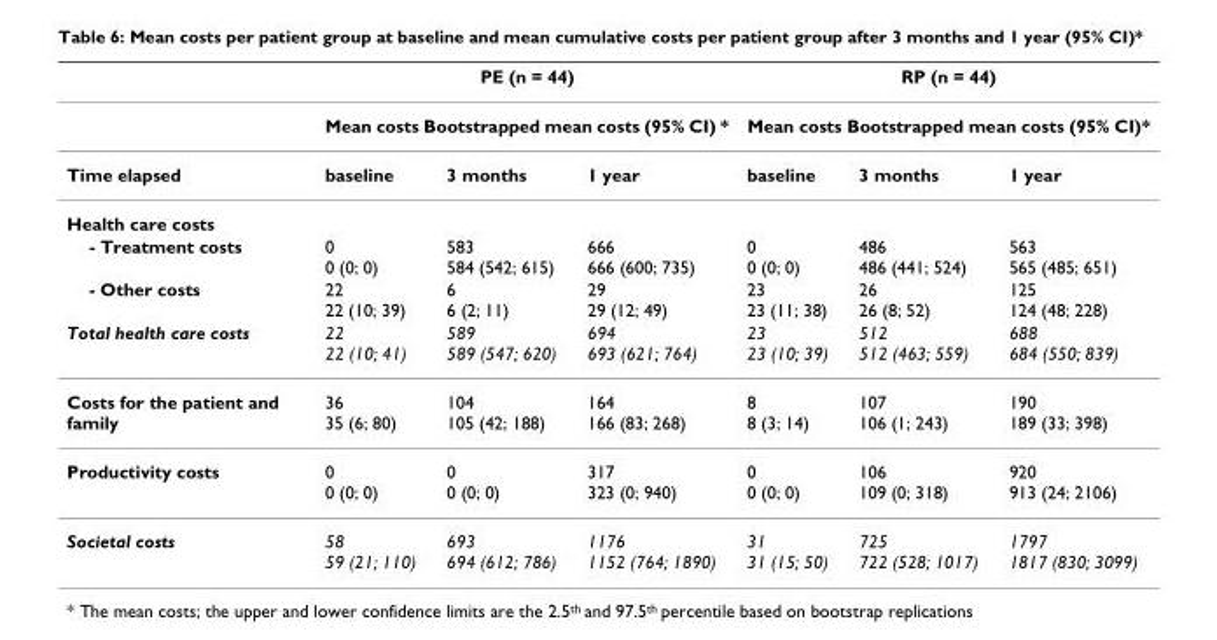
<table><thead><tr><td rowspan="3">Time elapsed</td><td rowspan="2" colspan="3">PE (n = 44) Mean costs Bootstrapped mean costs (95% CI) *</td><td rowspan="2" colspan="3">RP (n = 44) Mean costs Bootstrapped mean costs (95% CI)*</td></tr><tr></tr><tr><td>baseline</td><td>3 months</td><td>1 year</td><td>baseline</td><td>3 months</td><td>1 year</td></tr></thead><tbody><tr><td colspan="7">Health care costs</td></tr><tr><td>- Treatment costs</td><td>0 0 (0; 0)</td><td>583 584 (542; 615)</td><td>666 666 (600; 735)</td><td>0 0 (0; 0)</td><td>486 486 (441; 524)</td><td>563 565 (485; 651)</td></tr><tr><td>- Other costs</td><td>22 22 (10; 39)</td><td>6 6 (2; 11)</td><td>29 29 (12; 49)</td><td>23 23 (11; 38)</td><td>26 26 (8; 52)</td><td>125 124 (48; 228)</td></tr><tr><td>Total health care costs</td><td>22 22 (10; 41)</td><td>589 589 (547; 620)</td><td>694 693 (621; 764)</td><td>23 23 (10; 39)</td><td>512 512 (463; 559)</td><td>688 684 (550; 839)</td></tr><tr><td>Costs for the patient and family</td><td>36 35 (6; 80)</td><td>104 105 (42; 188)</td><td>164 166 (83; 268)</td><td>8 8 (3; 14)</td><td>107 106 (1; 243)</td><td>190 189 (33; 398)</td></tr><tr><td>Productivity costs</td><td>0 0 (0; 0)</td><td>0 0 (0; 0)</td><td>317 323 (0; 940)</td><td>0 0 (0; 0)</td><td>106 109 (0; 318)</td><td>920 913 (24; 2106)</td></tr><tr><td>Societal costs</td><td>58 59 (21; 110)</td><td>693 694 (612; 786)</td><td>1176 1152 (764; 1890)</td><td>31 31 (15; 50)</td><td>725 722 (528; 1017)</td><td>1797 1817 (830; 3099)</td></tr></tbody></table>